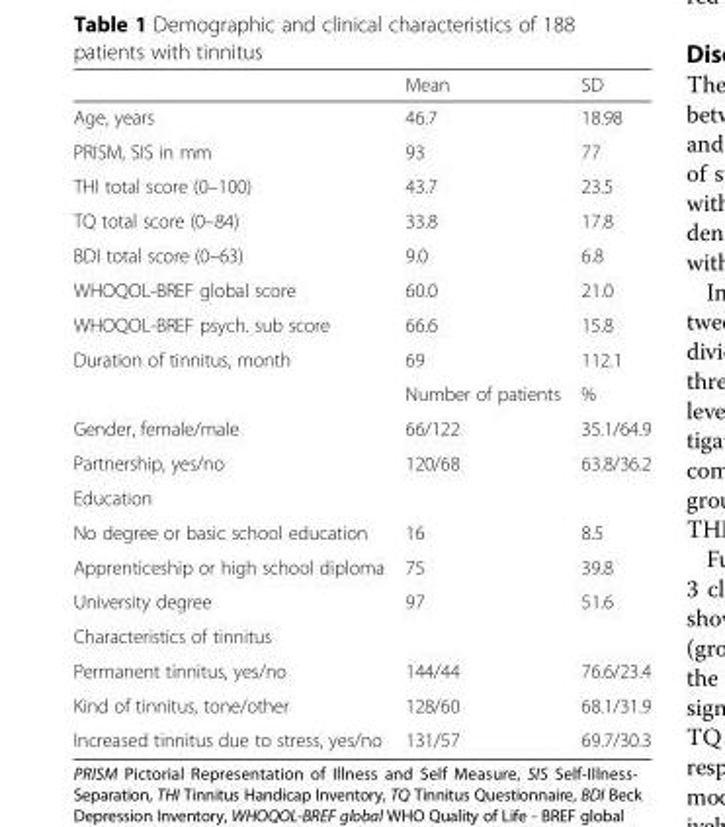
<table><thead><tr><td></td><td>Mean</td><td>SD</td></tr></thead><tbody><tr><td>Age, years</td><td>46.7</td><td>18.98</td></tr><tr><td>PRISM, SIS in mm</td><td>93</td><td>77</td></tr><tr><td>THI total score (0–100)</td><td>43.7</td><td>23.5</td></tr><tr><td>TQ total score (0–84)</td><td>33.8</td><td>17.8</td></tr><tr><td>BDI total score (0–63)</td><td>9.0</td><td>6.8</td></tr><tr><td>WHOQOL-BREF global score</td><td>60.0</td><td>21.0</td></tr><tr><td>WHOQOL-BREF psych. sub score</td><td>66.6</td><td>15.8</td></tr><tr><td rowspan="2">Duration of tinnitus, month</td><td>69</td><td>112.1</td></tr><tr><td>Number of patients</td><td>%</td></tr><tr><td>Gender, female/male</td><td>66/122</td><td>35.1/64.9</td></tr><tr><td>Partnership, yes/no</td><td>120/68</td><td>63.8/36.2</td></tr><tr><td colspan="3">Education</td></tr><tr><td>No degree or basic school education</td><td>16</td><td>8.5</td></tr><tr><td>Apprenticeship or high school diploma</td><td>75</td><td>39.8</td></tr><tr><td>University degree</td><td>97</td><td>51.6</td></tr><tr><td colspan="3">Characteristics of tinnitus</td></tr><tr><td>Permanent tinnitus, yes/no</td><td>144/44</td><td>76.6/23.4</td></tr><tr><td>Kind of tinnitus, tone/other</td><td>128/60</td><td>68.1/31.9</td></tr><tr><td>Increased tinnitus due to stress, yes/no</td><td>131/57</td><td>69.7/30.3</td></tr></tbody></table>